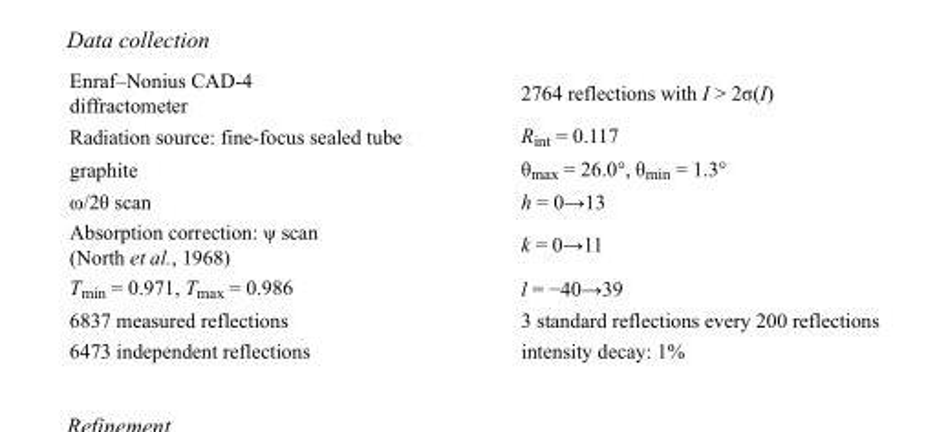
<table><tbody><tr><td>Enraf–Nonius CAD-4 diffractometer</td><td>2764 reflections with I &gt; 2σ(I)</td></tr><tr><td>Radiation source: fine-focus sealed tube</td><td>R<sub>int</sub> = 0.117</td></tr><tr><td>graphite</td><td>θ<sub>max</sub> = 26.0°, θ<sub>min</sub> = 1.3°</td></tr><tr><td>ω/2θ scan</td><td>h = 0→13</td></tr><tr><td>Absorption correction: ψ scan (North et al., 1968)</td><td>k = 0→11</td></tr><tr><td>T<sub>min</sub> = 0.971, T<sub>max</sub> = 0.986</td><td>l = −40→39</td></tr><tr><td>6837 measured reflections</td><td>3 standard reflections every 200 reflections</td></tr><tr><td>6473 independent reflections</td><td>intensity decay: 1%</td></tr></tbody></table>